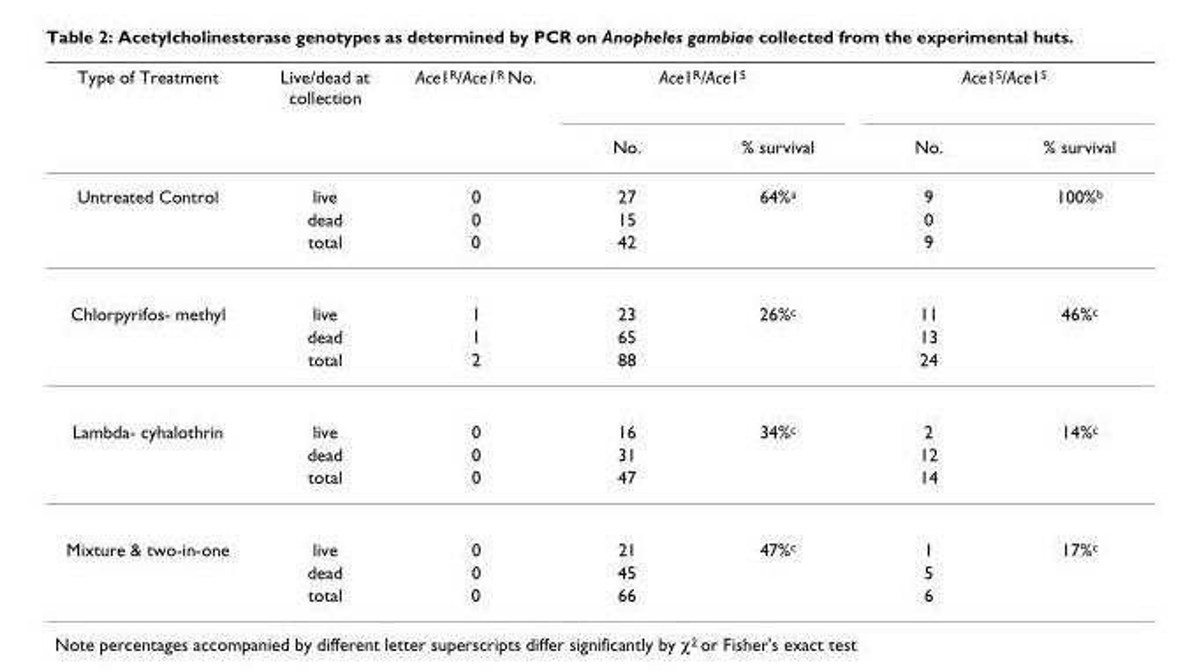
<table><thead><tr><td rowspan="2">Type of Treatment</td><td rowspan="2">Live/dead at collection</td><td rowspan="2">Ace1<sup>R</sup>/Ace1<sup>R</sup> No.</td><td colspan="2">Ace1<sup>R</sup>/Ace1<sup>S</sup></td><td colspan="2">Ace1<sup>S</sup>/Ace1<sup>S</sup></td></tr><tr><td>No.</td><td>% survival</td><td>No.</td><td>% survival</td></tr></thead><tbody><tr><td rowspan="3">Untreated Control</td><td>live</td><td>0</td><td>27</td><td>64%<sup>a</sup></td><td>9</td><td>100%<sup>b</sup></td></tr><tr><td>dead</td><td>0</td><td>15</td><td></td><td>0</td><td></td></tr><tr><td>total</td><td>0</td><td>42</td><td></td><td>9</td><td></td></tr><tr><td rowspan="3">Chlorpyrifos- methyl</td><td>live</td><td>1</td><td>23</td><td>26%<sup>c</sup></td><td>11</td><td>46%<sup>c</sup></td></tr><tr><td>dead</td><td>1</td><td>65</td><td></td><td>13</td><td></td></tr><tr><td>total</td><td>2</td><td>88</td><td></td><td>24</td><td></td></tr><tr><td rowspan="3">Lambda- cyhalothrin</td><td>live</td><td>0</td><td>16</td><td>34%<sup>c</sup></td><td>2</td><td>14%<sup>c</sup></td></tr><tr><td>dead</td><td>0</td><td>31</td><td></td><td>12</td><td></td></tr><tr><td>total</td><td>0</td><td>47</td><td></td><td>14</td><td></td></tr><tr><td rowspan="3">Mixture &amp; two-in-one</td><td>live</td><td>0</td><td>21</td><td>47%<sup>c</sup></td><td>1</td><td>17%<sup>c</sup></td></tr><tr><td>dead</td><td>0</td><td>45</td><td></td><td>5</td><td></td></tr><tr><td>total</td><td>0</td><td>66</td><td></td><td>6</td><td></td></tr></tbody></table>